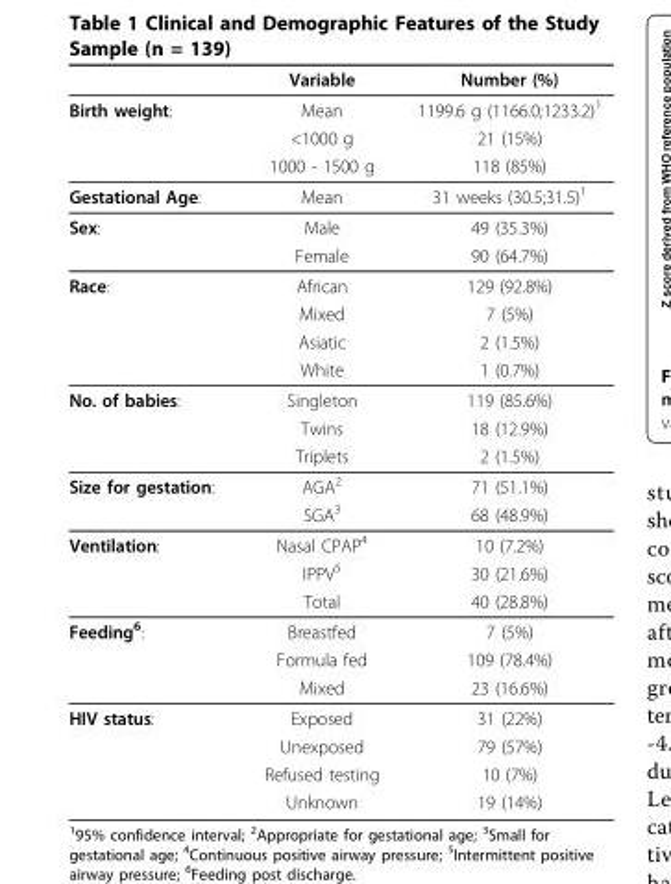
<table><thead><tr><td></td><td>Variable</td><td>Number (%)</td></tr></thead><tbody><tr><td rowspan="3">Birth weight:</td><td>Mean</td><td>1199.6 g (1166.0;1233.2)<sup>1</sup></td></tr><tr><td>&lt;1000 g</td><td>21 (15%)</td></tr><tr><td>1000 - 1500 g</td><td>118 (85%)</td></tr><tr><td>Gestational Age:</td><td>Mean</td><td>31 weeks (30.5;31.5)<sup>1</sup></td></tr><tr><td rowspan="2">Sex:</td><td>Male</td><td>49 (35.3%)</td></tr><tr><td>Female</td><td>90 (64.7%)</td></tr><tr><td rowspan="4">Race:</td><td>African</td><td>129 (92.8%)</td></tr><tr><td>Mixed</td><td>7 (5%)</td></tr><tr><td>Asiatic</td><td>2 (1.5%)</td></tr><tr><td>White</td><td>1 (0.7%)</td></tr><tr><td rowspan="3">No. of babies:</td><td>Singleton</td><td>119 (85.6%)</td></tr><tr><td>Twins</td><td>18 (12.9%)</td></tr><tr><td>Triplets</td><td>2 (1.5%)</td></tr><tr><td rowspan="2">Size for gestation:</td><td>AGA<sup>2</sup></td><td>71 (51.1%)</td></tr><tr><td>SGA<sup>3</sup></td><td>68 (48.9%)</td></tr><tr><td rowspan="3">Ventilation:</td><td>Nasal CPAP<sup>4</sup></td><td>10 (7.2%)</td></tr><tr><td>IPPV<sup>5</sup></td><td>30 (21.6%)</td></tr><tr><td>Total</td><td>40 (28.8%)</td></tr><tr><td rowspan="3">Feeding<sup>6</sup>:</td><td>Breastfed</td><td>7 (5%)</td></tr><tr><td>Formula fed</td><td>109 (78.4%)</td></tr><tr><td>Mixed</td><td>23 (16.6%)</td></tr><tr><td rowspan="4">HIV status:</td><td>Exposed</td><td>31 (22%)</td></tr><tr><td>Unexposed</td><td>79 (57%)</td></tr><tr><td>Refused testing</td><td>10 (7%)</td></tr><tr><td>Unknown</td><td>19 (14%)</td></tr></tbody></table>